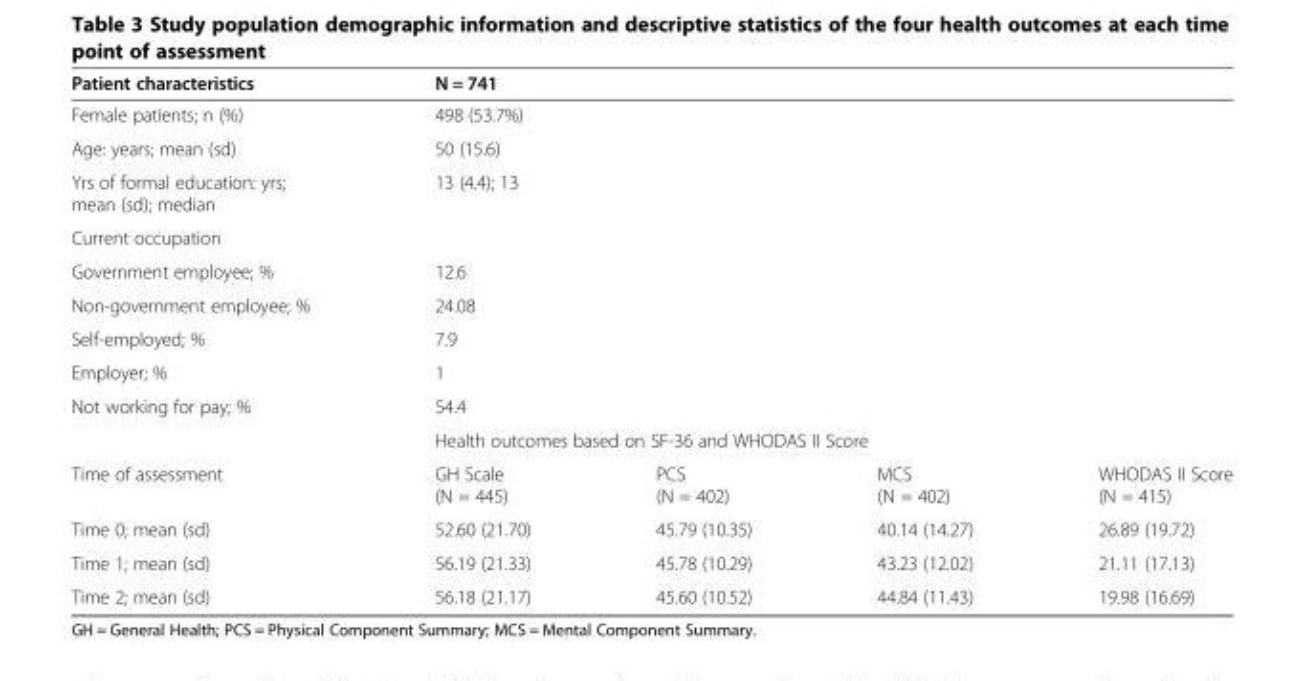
<table><thead><tr><td>Patient characteristics</td><td colspan="4">N = 741</td></tr></thead><tbody><tr><td>Female patients; n (%)</td><td colspan="4">498 (53.7%)</td></tr><tr><td>Age: years; mean (sd)</td><td colspan="4">50 (15.6)</td></tr><tr><td>Yrs of formal education: yrs; mean (sd); median</td><td colspan="4">13 (4.4); 13</td></tr><tr><td colspan="5">Current occupation</td></tr><tr><td>Government employee; %</td><td colspan="4">12.6</td></tr><tr><td>Non-government employee; %</td><td colspan="4">24.08</td></tr><tr><td>Self-employed; %</td><td colspan="4">7.9</td></tr><tr><td>Employer; %</td><td colspan="4">1</td></tr><tr><td rowspan="2">Not working for pay; %</td><td colspan="4">54.4</td></tr><tr><td colspan="4">Health outcomes based on SF-36 and WHODAS II Score</td></tr><tr><td>Time of assessment</td><td>GH Scale (N = 445)</td><td>PCS (N = 402)</td><td>MCS (N = 402)</td><td>WHODAS II Score (N = 415)</td></tr><tr><td>Time 0; mean (sd)</td><td>52.60 (21.70)</td><td>45.79 (10.35)</td><td>40.14 (14.27)</td><td>26.89 (19.72)</td></tr><tr><td>Time 1; mean (sd)</td><td>56.19 (21.33)</td><td>45.78 (10.29)</td><td>43.23 (12.02)</td><td>21.11 (17.13)</td></tr><tr><td>Time 2; mean (sd)</td><td>56.18 (21.17)</td><td>45.60 (10.52)</td><td>44.84 (11.43)</td><td>19.98 (16.69)</td></tr></tbody></table>